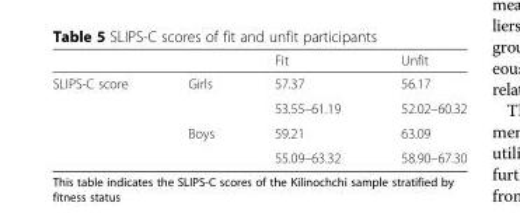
<table><thead><tr><td></td><td></td><td>Fit</td><td>Unfit</td></tr></thead><tbody><tr><td rowspan="4">SLIPS-C score</td><td>Girls</td><td>57.37</td><td>56.17</td></tr><tr><td></td><td>53.55–61.19</td><td>52.02–60.32</td></tr><tr><td>Boys</td><td>59.21</td><td>63.09</td></tr><tr><td></td><td>55.09–63.32</td><td>58.90–67.30</td></tr></tbody></table>